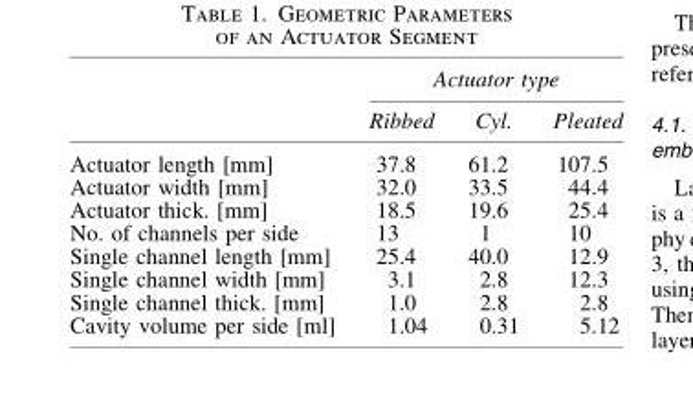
<table><thead><tr><td rowspan="2"></td><td colspan="3">Actuator type</td></tr><tr><td>Ribbed</td><td>Cyl.</td><td>Pleated</td></tr></thead><tbody><tr><td>Actuator length [mm]</td><td>37.8</td><td>61.2</td><td>107.5</td></tr><tr><td>Actuator width [mm]</td><td>32.0</td><td>33.5</td><td>44.4</td></tr><tr><td>Actuator thick. [mm]</td><td>18.5</td><td>19.6</td><td>25.4</td></tr><tr><td>No. of channels per side</td><td>13</td><td>1</td><td>10</td></tr><tr><td>Single channel length [mm]</td><td>25.4</td><td>40.0</td><td>12.9</td></tr><tr><td>Single channel width [mm]</td><td>3.1</td><td>2.8</td><td>12.3</td></tr><tr><td>Single channel thick. [mm]</td><td>1.0</td><td>2.8</td><td>2.8</td></tr><tr><td>Cavity volume per side [ml]</td><td>1.04</td><td>0.31</td><td>5.12</td></tr></tbody></table>